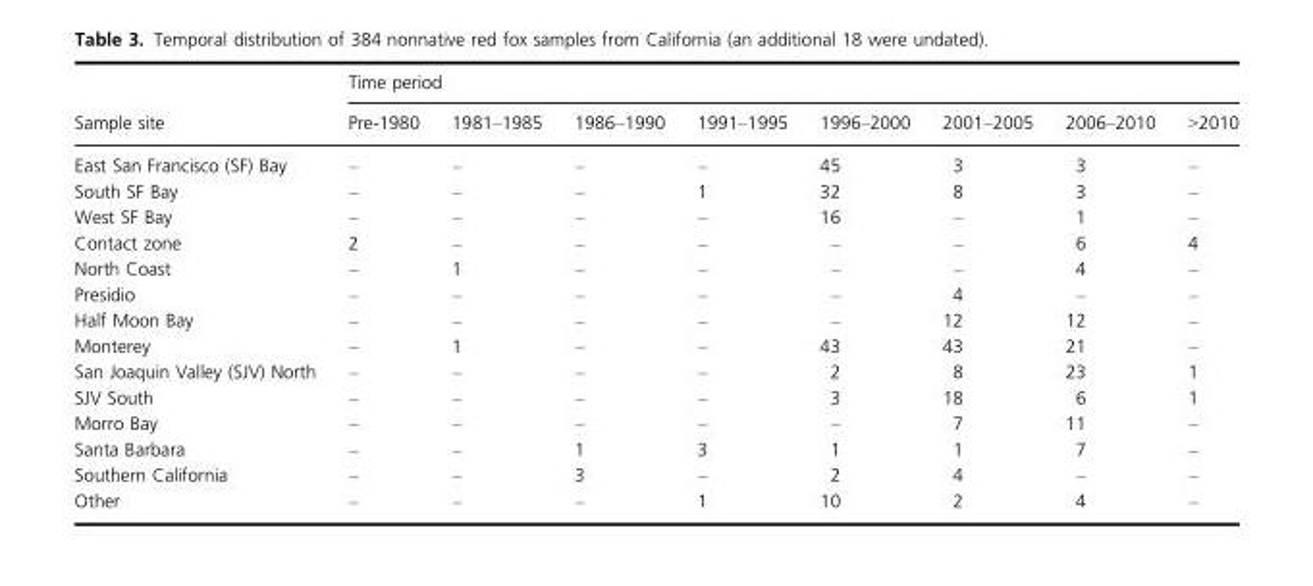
<table><thead><tr><td rowspan="2">Sample site</td><td colspan="8">Time period</td></tr><tr><td>Pre-1980</td><td>1981–1985</td><td>1986–1990</td><td>1991–1995</td><td>1996–2000</td><td>2001–2005</td><td>2006–2010</td><td>&gt;2010</td></tr></thead><tbody><tr><td>East San Francisco (SF) Bay</td><td>–</td><td>–</td><td>–</td><td>–</td><td>45</td><td>3</td><td>3</td><td>–</td></tr><tr><td>South SF Bay</td><td>–</td><td>–</td><td>–</td><td>1</td><td>32</td><td>8</td><td>3</td><td>–</td></tr><tr><td>West SF Bay</td><td>–</td><td>–</td><td>–</td><td>–</td><td>16</td><td>–</td><td>1</td><td>–</td></tr><tr><td>Contact zone</td><td>2</td><td>–</td><td>–</td><td>–</td><td>–</td><td>–</td><td>6</td><td>4</td></tr><tr><td>North Coast</td><td>–</td><td>1</td><td>–</td><td>–</td><td>–</td><td>–</td><td>4</td><td>–</td></tr><tr><td>Presidio</td><td>–</td><td>–</td><td>–</td><td>–</td><td>–</td><td>4</td><td>–</td><td>–</td></tr><tr><td>Half Moon Bay</td><td>–</td><td>–</td><td>–</td><td>–</td><td>–</td><td>12</td><td>12</td><td>–</td></tr><tr><td>Monterey</td><td>–</td><td>1</td><td>–</td><td>–</td><td>43</td><td>43</td><td>21</td><td>–</td></tr><tr><td>San Joaquin Valley (SJV) North</td><td>–</td><td>–</td><td>–</td><td>–</td><td>2</td><td>8</td><td>23</td><td>1</td></tr><tr><td>SJV South</td><td>–</td><td>–</td><td>–</td><td>–</td><td>3</td><td>18</td><td>6</td><td>1</td></tr><tr><td>Morro Bay</td><td>–</td><td>–</td><td>–</td><td>–</td><td>–</td><td>7</td><td>11</td><td>–</td></tr><tr><td>Santa Barbara</td><td>–</td><td>–</td><td>1</td><td>3</td><td>1</td><td>1</td><td>7</td><td>–</td></tr><tr><td>Southern California</td><td>–</td><td>–</td><td>3</td><td>–</td><td>2</td><td>4</td><td>–</td><td>–</td></tr><tr><td>Other</td><td>–</td><td>–</td><td>–</td><td>1</td><td>10</td><td>2</td><td>4</td><td>–</td></tr></tbody></table>